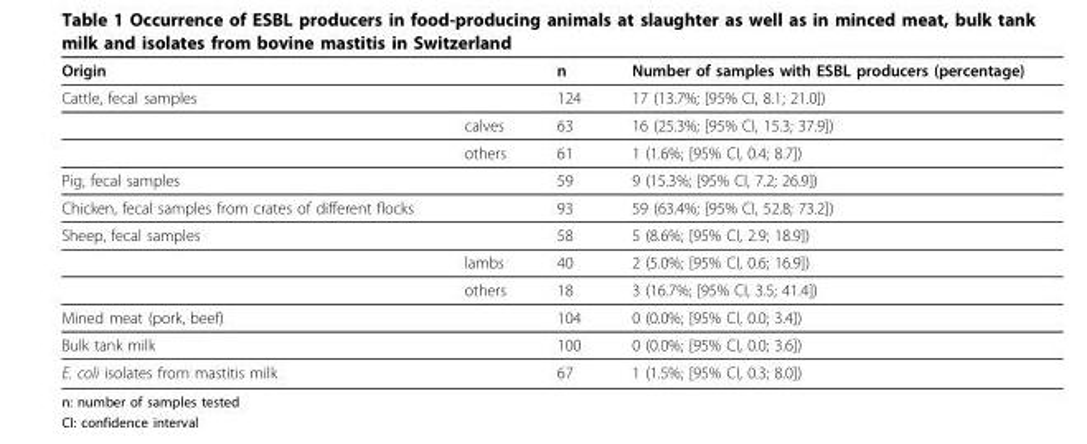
<table><thead><tr><td rowspan="2" colspan="2">Origin Cattle, fecal samples</td><td rowspan="3">n 124 63</td><td rowspan="3">Number of samples with ESBL producers (percentage) 17 (13.7%; [95% CI, 8.1; 21.0]) 16 (25.3%; [95% CI, 15.3; 37.9])</td></tr><tr></tr><tr><td></td><td>calves</td></tr></thead><tbody><tr><td></td><td>others</td><td>61</td><td>1 (1.6%; [95% CI, 0.4; 8.7])</td></tr><tr><td>Pig, fecal samples</td><td></td><td>59</td><td>9 (15.3%; [95% CI, 7.2; 26.9])</td></tr><tr><td>Chicken, fecal samples from crates of different flocks</td><td></td><td>93</td><td>59 (63.4%; [95% CI, 52.8; 73.2])</td></tr><tr><td rowspan="3">Sheep, fecal samples</td><td></td><td>58</td><td>5 (8.6%; [95% CI, 2.9; 18.9])</td></tr><tr><td>lambs</td><td>40</td><td>2 (5.0%; [95% CI, 0.6; 16.9])</td></tr><tr><td>others</td><td>18</td><td>3 (16.7%; [95% CI, 3.5; 41.4])</td></tr><tr><td>Mined meat (pork, beef)</td><td></td><td>104</td><td>0 (0.0%; [95% CI, 0.0; 3.4])</td></tr><tr><td>Bulk tank milk</td><td></td><td>100</td><td>0 (0.0%; [95% CI, 0.0; 3.6])</td></tr><tr><td>E. coli isolates from mastitis milk</td><td></td><td>67</td><td>1 (1.5%; [95% CI, 0.3; 8.0])</td></tr></tbody></table>